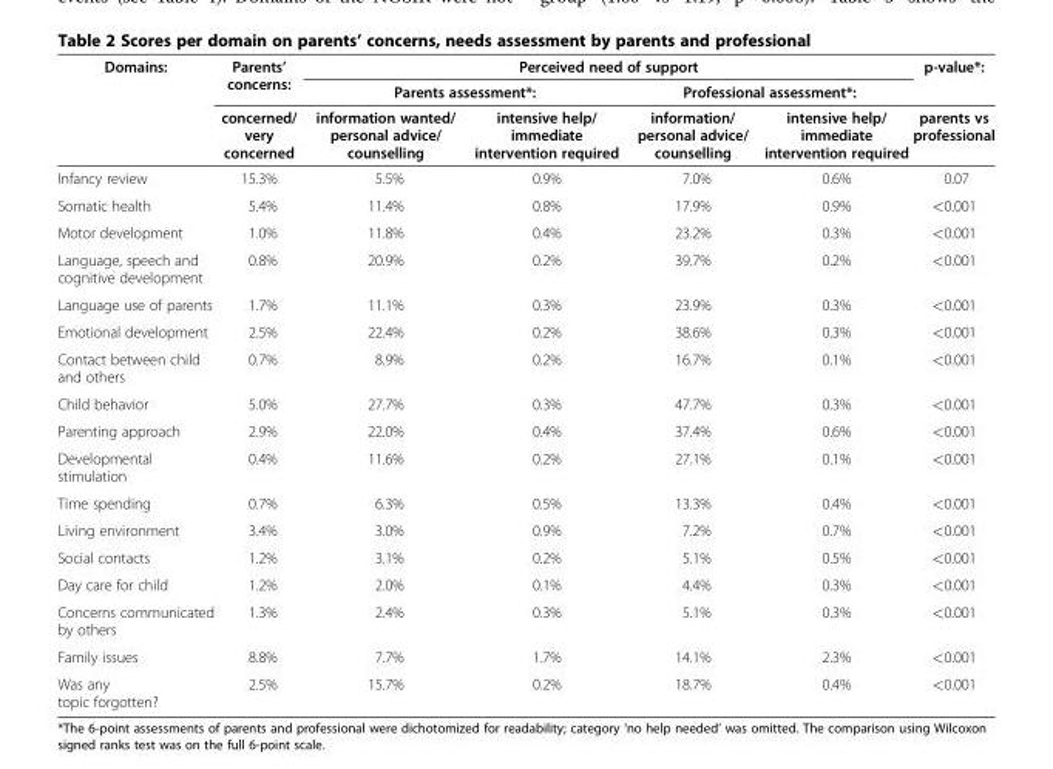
<table><thead><tr><td rowspan="3">Domains:</td><td rowspan="3">Parents’ concerns: concerned/ very concerned</td><td colspan="4">Perceived need of support</td><td rowspan="3">p-value*: parents vs professional</td></tr><tr><td colspan="2">Parents assessment*:</td><td colspan="2">Professional assessment*:</td></tr><tr><td>information wanted/ personal advice/ counselling</td><td>intensive help/ immediate intervention required</td><td>information/ personal advice/ counselling</td><td>intensive help/ immediate intervention required</td></tr></thead><tbody><tr><td>Infancy review</td><td>15.3%</td><td>5.5%</td><td>0.9%</td><td>7.0%</td><td>0.6%</td><td>0.07</td></tr><tr><td>Somatic health</td><td>5.4%</td><td>11.4%</td><td>0.8%</td><td>17.9%</td><td>0.9%</td><td>&lt;0.001</td></tr><tr><td>Motor development</td><td>1.0%</td><td>11.8%</td><td>0.4%</td><td>23.2%</td><td>0.3%</td><td>&lt;0.001</td></tr><tr><td>Language, speech and cognitive development</td><td>0.8%</td><td>20.9%</td><td>0.2%</td><td>39.7%</td><td>0.2%</td><td>&lt;0.001</td></tr><tr><td>Language use of parents</td><td>1.7%</td><td>11.1%</td><td>0.3%</td><td>23.9%</td><td>0.3%</td><td>&lt;0.001</td></tr><tr><td>Emotional development</td><td>2.5%</td><td>22.4%</td><td>0.2%</td><td>38.6%</td><td>0.3%</td><td>&lt;0.001</td></tr><tr><td>Contact between child and others</td><td>0.7%</td><td>8.9%</td><td>0.2%</td><td>16.7%</td><td>0.1%</td><td>&lt;0.001</td></tr><tr><td>Child behavior</td><td>5.0%</td><td>27.7%</td><td>0.3%</td><td>47.7%</td><td>0.3%</td><td>&lt;0.001</td></tr><tr><td>Parenting approach</td><td>2.9%</td><td>22.0%</td><td>0.4%</td><td>37.4%</td><td>0.6%</td><td>&lt;0.001</td></tr><tr><td>Developmental stimulation</td><td>0.4%</td><td>11.6%</td><td>0.2%</td><td>27.1%</td><td>0.1%</td><td>&lt;0.001</td></tr><tr><td>Time spending</td><td>0.7%</td><td>6.3%</td><td>0.5%</td><td>13.3%</td><td>0.4%</td><td>&lt;0.001</td></tr><tr><td>Living environment</td><td>3.4%</td><td>3.0%</td><td>0.9%</td><td>7.2%</td><td>0.7%</td><td>&lt;0.001</td></tr><tr><td>Social contacts</td><td>1.2%</td><td>3.1%</td><td>0.2%</td><td>5.1%</td><td>0.5%</td><td>&lt;0.001</td></tr><tr><td>Day care for child</td><td>1.2%</td><td>2.0%</td><td>0.1%</td><td>4.4%</td><td>0.3%</td><td>&lt;0.001</td></tr><tr><td>Concerns communicated by others</td><td>1.3%</td><td>2.4%</td><td>0.3%</td><td>5.1%</td><td>0.3%</td><td>&lt;0.001</td></tr><tr><td>Family issues</td><td>8.8%</td><td>7.7%</td><td>1.7%</td><td>14.1%</td><td>2.3%</td><td>&lt;0.001</td></tr><tr><td>Was any topic forgotten?</td><td>2.5%</td><td>15.7%</td><td>0.2%</td><td>18.7%</td><td>0.4%</td><td>&lt;0.001</td></tr></tbody></table>